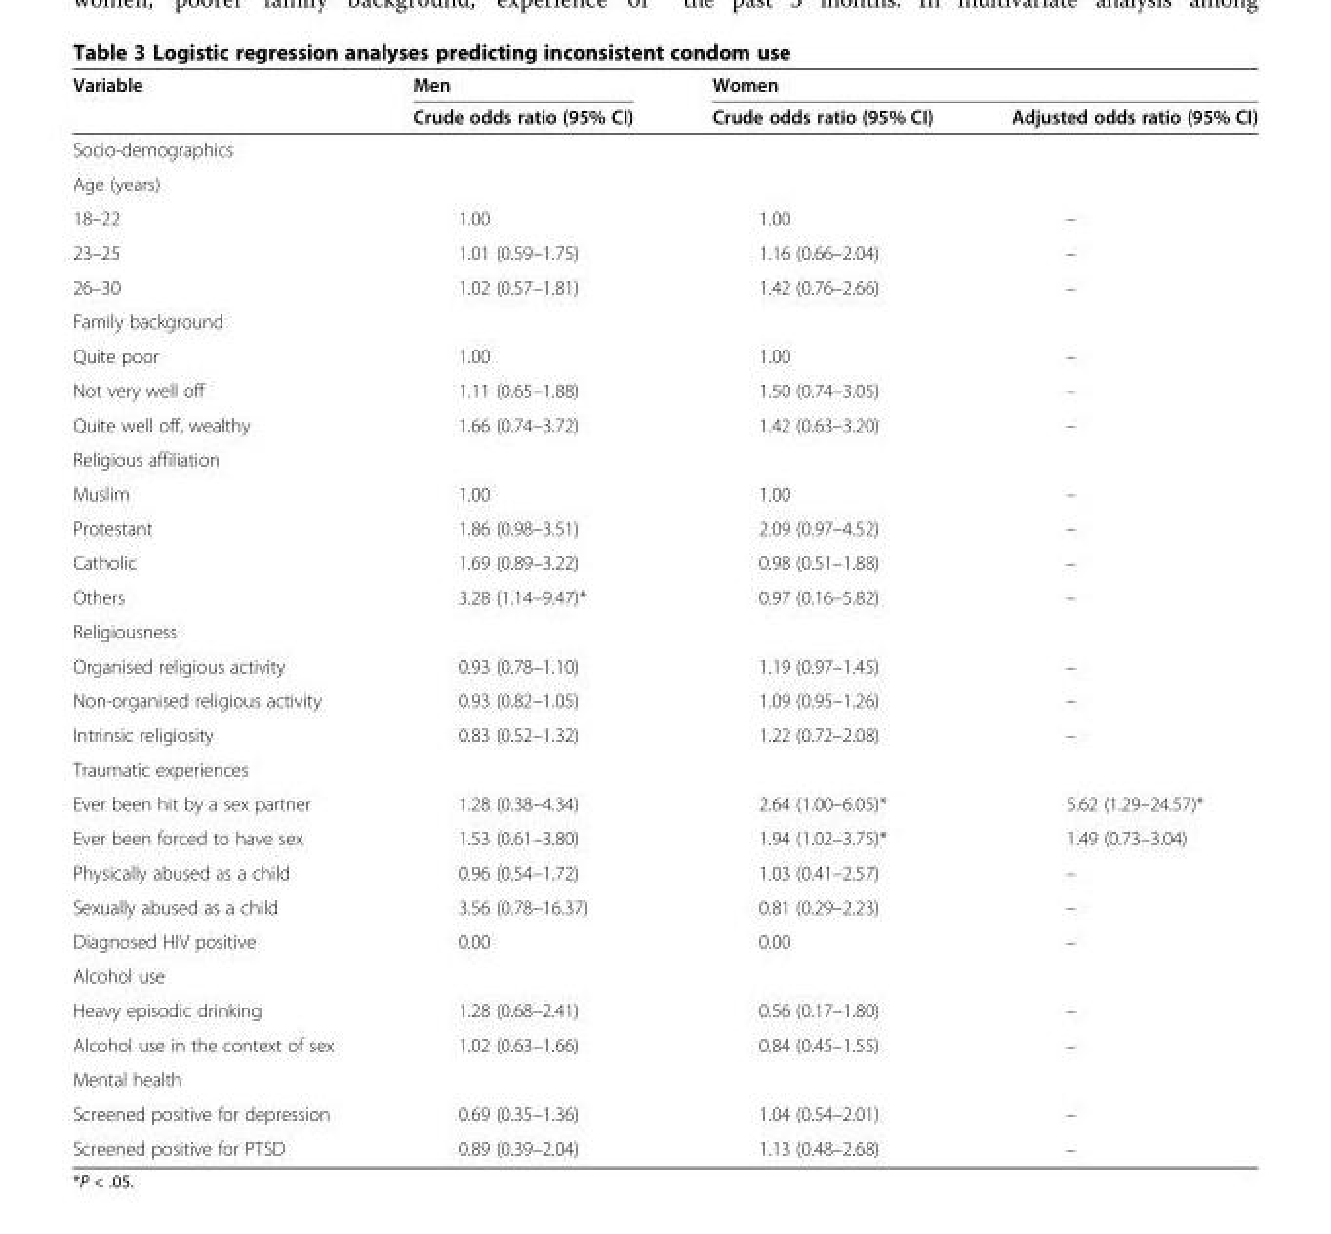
<table><thead><tr><td rowspan="2">Variable</td><td rowspan="2">Men Crude odds ratio (95% CI)</td><td colspan="2">Women</td></tr><tr><td>Crude odds ratio (95% CI)</td><td>Adjusted odds ratio (95% CI)</td></tr></thead><tbody><tr><td colspan="4">Socio-demographics</td></tr><tr><td colspan="4">Age (years)</td></tr><tr><td>18–22</td><td>1.00</td><td>1.00</td><td>–</td></tr><tr><td>23–25</td><td>1.01 (0.59–1.75)</td><td>1.16 (0.66–2.04)</td><td>–</td></tr><tr><td>26–30</td><td>1.02 (0.57–1.81)</td><td>1.42 (0.76–2.66)</td><td>–</td></tr><tr><td colspan="4">Family background</td></tr><tr><td>Quite poor</td><td>1.00</td><td>1.00</td><td>–</td></tr><tr><td>Not very well off</td><td>1.11 (0.65–1.88)</td><td>1.50 (0.74–3.05)</td><td>–</td></tr><tr><td>Quite well off, wealthy</td><td>1.66 (0.74–3.72)</td><td>1.42 (0.63–3.20)</td><td>–</td></tr><tr><td colspan="4">Religious affiliation</td></tr><tr><td>Muslim</td><td>1.00</td><td>1.00</td><td>–</td></tr><tr><td>Protestant</td><td>1.86 (0.98–3.51)</td><td>2.09 (0.97–4.52)</td><td>–</td></tr><tr><td>Catholic</td><td>1.69 (0.89–3.22)</td><td>0.98 (0.51–1.88)</td><td>–</td></tr><tr><td>Others</td><td>3.28 (1.14–9.47)*</td><td>0.97 (0.16–5.82)</td><td>–</td></tr><tr><td colspan="4">Religiousness</td></tr><tr><td>Organised religious activity</td><td>0.93 (0.78–1.10)</td><td>1.19 (0.97–1.45)</td><td>–</td></tr><tr><td>Non-organised religious activity</td><td>0.93 (0.82–1.05)</td><td>1.09 (0.95–1.26)</td><td>–</td></tr><tr><td>Intrinsic religiosity</td><td>0.83 (0.52–1.32)</td><td>1.22 (0.72–2.08)</td><td>–</td></tr><tr><td colspan="4">Traumatic experiences</td></tr><tr><td>Ever been hit by a sex partner</td><td>1.28 (0.38–4.34)</td><td>2.64 (1.00–6.05)*</td><td>5.62 (1.29–24.57)*</td></tr><tr><td>Ever been forced to have sex</td><td>1.53 (0.61–3.80)</td><td>1.94 (1.02–3.75)*</td><td>1.49 (0.73–3.04)</td></tr><tr><td>Physically abused as a child</td><td>0.96 (0.54–1.72)</td><td>1.03 (0.41–2.57)</td><td>–</td></tr><tr><td>Sexually abused as a child</td><td>3.56 (0.78–16.37)</td><td>0.81 (0.29–2.23)</td><td>–</td></tr><tr><td>Diagnosed HIV positive</td><td>0.00</td><td>0.00</td><td>–</td></tr><tr><td colspan="4">Alcohol use</td></tr><tr><td>Heavy episodic drinking</td><td>1.28 (0.68–2.41)</td><td>0.56 (0.17–1.80)</td><td>–</td></tr><tr><td>Alcohol use in the context of sex</td><td>1.02 (0.63–1.66)</td><td>0.84 (0.45–1.55)</td><td>–</td></tr><tr><td colspan="4">Mental health</td></tr><tr><td>Screened positive for depression</td><td>0.69 (0.35–1.36)</td><td>1.04 (0.54–2.01)</td><td>–</td></tr><tr><td>Screened positive for PTSD</td><td>0.89 (0.39–2.04)</td><td>1.13 (0.48–2.68)</td><td>–</td></tr></tbody></table>